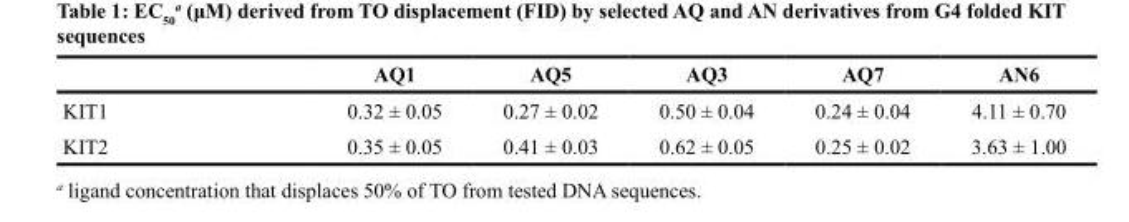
<table><thead><tr><td></td><td>AQ1</td><td>AQ5</td><td>AQ3</td><td>AQ7</td><td>AN6</td></tr></thead><tbody><tr><td>KIT1</td><td>0.32 ± 0.05</td><td>0.27 ± 0.02</td><td>0.50 ± 0.04</td><td>0.24 ± 0.04</td><td>4.11 ± 0.70</td></tr><tr><td>KIT2</td><td>0.35 ± 0.05</td><td>0.41 ± 0.03</td><td>0.62 ± 0.05</td><td>0.25 ± 0.02</td><td>3.63 ± 1.00</td></tr></tbody></table>